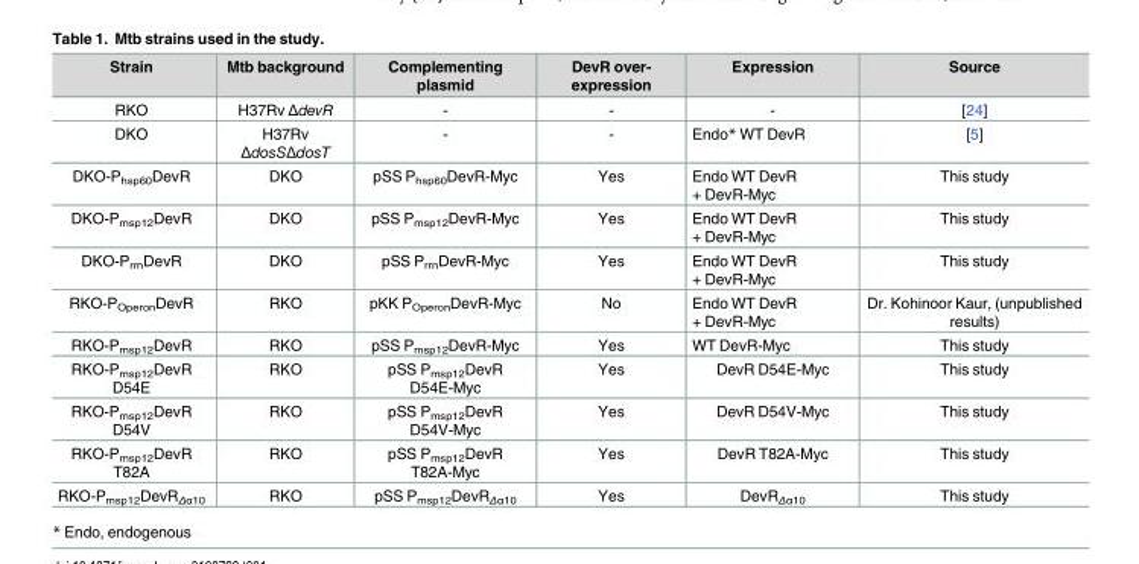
<table><thead><tr><td>Strain</td><td>Mtb background</td><td>Complementing plasmid</td><td>DevR over- expression</td><td>Expression</td><td>Source</td></tr></thead><tbody><tr><td>RKO</td><td>H37Rv ΔdevR</td><td>-</td><td>-</td><td>-</td><td>[24]</td></tr><tr><td>DKO</td><td>H37Rv ΔdosSΔdosT</td><td>-</td><td>-</td><td>Endo* WT DevR</td><td>[5]</td></tr><tr><td>DKO-P<sub>hsp60</sub>DevR</td><td>DKO</td><td>pSS P<sub>hsp60</sub>DevR-Myc</td><td>Yes</td><td>Endo WT DevR + DevR-Myc</td><td>This study</td></tr><tr><td>DKO-P<sub>msp12</sub>DevR</td><td>DKO</td><td>pSS P<sub>msp12</sub>DevR-Myc</td><td>Yes</td><td>Endo WT DevR + DevR-Myc</td><td>This study</td></tr><tr><td>DKO-P<sub>rrn</sub>DevR</td><td>DKO</td><td>pSS P<sub>rrn</sub>DevR-Myc</td><td>Yes</td><td>Endo WT DevR + DevR-Myc</td><td>This study</td></tr><tr><td>RKO-P<sub>Operon</sub>DevR</td><td>RKO</td><td>pKK P<sub>Operon</sub>DevR-Myc</td><td>No</td><td>Endo WT DevR + DevR-Myc</td><td>Dr. Kohinoor Kaur, (unpublished results)</td></tr><tr><td>RKO-P<sub>msp12</sub>DevR</td><td>RKO</td><td>pSS P<sub>msp12</sub>DevR-Myc</td><td>Yes</td><td>WT DevR-Myc</td><td>This study</td></tr><tr><td>RKO-P<sub>msp12</sub>DevR D54E</td><td>RKO</td><td>pSS P<sub>msp12</sub>DevR D54E-Myc</td><td>Yes</td><td>DevR D54E-Myc</td><td>This study</td></tr><tr><td>RKO-P<sub>msp12</sub>DevR D54V</td><td>RKO</td><td>pSS P<sub>msp12</sub>DevR D54V-Myc</td><td>Yes</td><td>DevR D54V-Myc</td><td>This study</td></tr><tr><td>RKO-P<sub>msp12</sub>DevR T82A</td><td>RKO</td><td>pSS P<sub>msp12</sub>DevR T82A-Myc</td><td>Yes</td><td>DevR T82A-Myc</td><td>This study</td></tr><tr><td>RKO-P<sub>msp12</sub>DevR<sub>Δα10</sub></td><td>RKO</td><td>pSS P<sub>msp12</sub>DevR<sub>Δα10</sub></td><td>Yes</td><td>DevR<sub>Δα10</sub></td><td>This study</td></tr></tbody></table>